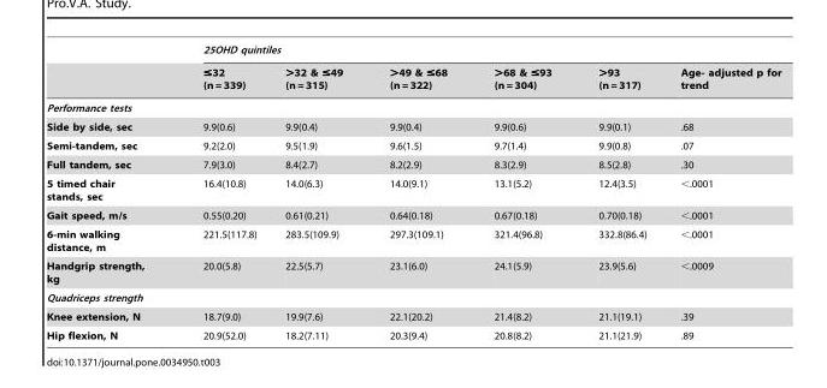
<table><thead><tr><td rowspan="2"></td><td colspan="6">25OHD quintiles</td></tr><tr><td>≤32 (n = 339)</td><td>&gt;32 &amp; ≤49 (n = 315)</td><td>&gt;49 &amp; ≤68 (n = 322)</td><td>&gt;68 &amp; ≤93 (n = 304)</td><td>&gt;93 (n = 317)</td><td>Age- adjusted p for trend</td></tr></thead><tbody><tr><td colspan="7">Performance tests</td></tr><tr><td>Side by side, sec</td><td>9.9(0.6)</td><td>9.9(0.4)</td><td>9.9(0.4)</td><td>9.9(0.6)</td><td>9.9(0.1)</td><td>.68</td></tr><tr><td>Semi-tandem, sec</td><td>9.2(2.0)</td><td>9.5(1.9)</td><td>9.6(1.5)</td><td>9.7(1.4)</td><td>9.9(0.8)</td><td>.07</td></tr><tr><td>Full tandem, sec</td><td>7.9(3.0)</td><td>8.4(2.7)</td><td>8.2(2.9)</td><td>8.3(2.9)</td><td>8.5(2.8)</td><td>.30</td></tr><tr><td>5 timed chair stands, sec</td><td>16.4(10.8)</td><td>14.0(6.3)</td><td>14.0(9.1)</td><td>13.1(5.2)</td><td>12.4(3.5)</td><td>&lt;.0001</td></tr><tr><td>Gait speed, m/s</td><td>0.55(0.20)</td><td>0.61(0.21)</td><td>0.64(0.18)</td><td>0.67(0.18)</td><td>0.70(0.18)</td><td>&lt;.0001</td></tr><tr><td>6-min walking distance, m</td><td>221.5(117.8)</td><td>283.5(109.9)</td><td>297.3(109.1)</td><td>321.4(96.8)</td><td>332.8(86.4)</td><td>&lt;.0001</td></tr><tr><td>Handgrip strength, kg</td><td>20.0(5.8)</td><td>22.5(5.7)</td><td>23.1(6.0)</td><td>24.1(5.9)</td><td>23.9(5.6)</td><td>&lt;.0009</td></tr><tr><td colspan="7">Quadriceps strength</td></tr><tr><td>Knee extension, N</td><td>18.7(9.0)</td><td>19.9(7.6)</td><td>22.1(20.2)</td><td>21.4(8.2)</td><td>21.1(19.1)</td><td>.39</td></tr><tr><td>Hip flexion, N</td><td>20.9(52.0)</td><td>18.2(7.11)</td><td>20.3(9.4)</td><td>20.8(8.2)</td><td>21.1(21.9)</td><td>.89</td></tr></tbody></table>